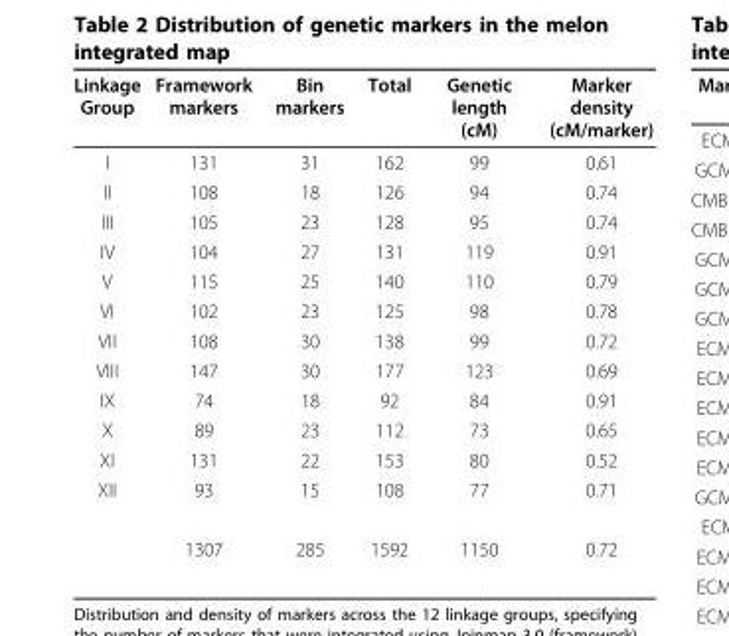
<table><thead><tr><td>Linkage Group</td><td>Framework markers</td><td>Bin markers</td><td>Total</td><td>Genetic length (cM)</td><td>Marker density (cM/marker)</td></tr></thead><tbody><tr><td>I</td><td>131</td><td>31</td><td>162</td><td>99</td><td>0.61</td></tr><tr><td>II</td><td>108</td><td>18</td><td>126</td><td>94</td><td>0.74</td></tr><tr><td>III</td><td>105</td><td>23</td><td>128</td><td>95</td><td>0.74</td></tr><tr><td>IV</td><td>104</td><td>27</td><td>131</td><td>119</td><td>0.91</td></tr><tr><td>V</td><td>115</td><td>25</td><td>140</td><td>110</td><td>0.79</td></tr><tr><td>VI</td><td>102</td><td>23</td><td>125</td><td>98</td><td>0.78</td></tr><tr><td>VII</td><td>108</td><td>30</td><td>138</td><td>99</td><td>0.72</td></tr><tr><td>VIII</td><td>147</td><td>30</td><td>177</td><td>123</td><td>0.69</td></tr><tr><td>IX</td><td>74</td><td>18</td><td>92</td><td>84</td><td>0.91</td></tr><tr><td>X</td><td>89</td><td>23</td><td>112</td><td>73</td><td>0.65</td></tr><tr><td>XI</td><td>131</td><td>22</td><td>153</td><td>80</td><td>0.52</td></tr><tr><td rowspan="2">XII</td><td>93</td><td>15</td><td>108</td><td>77</td><td>0.71</td></tr><tr><td>1307</td><td>285</td><td>1592</td><td>1150</td><td>0.72</td></tr></tbody></table>